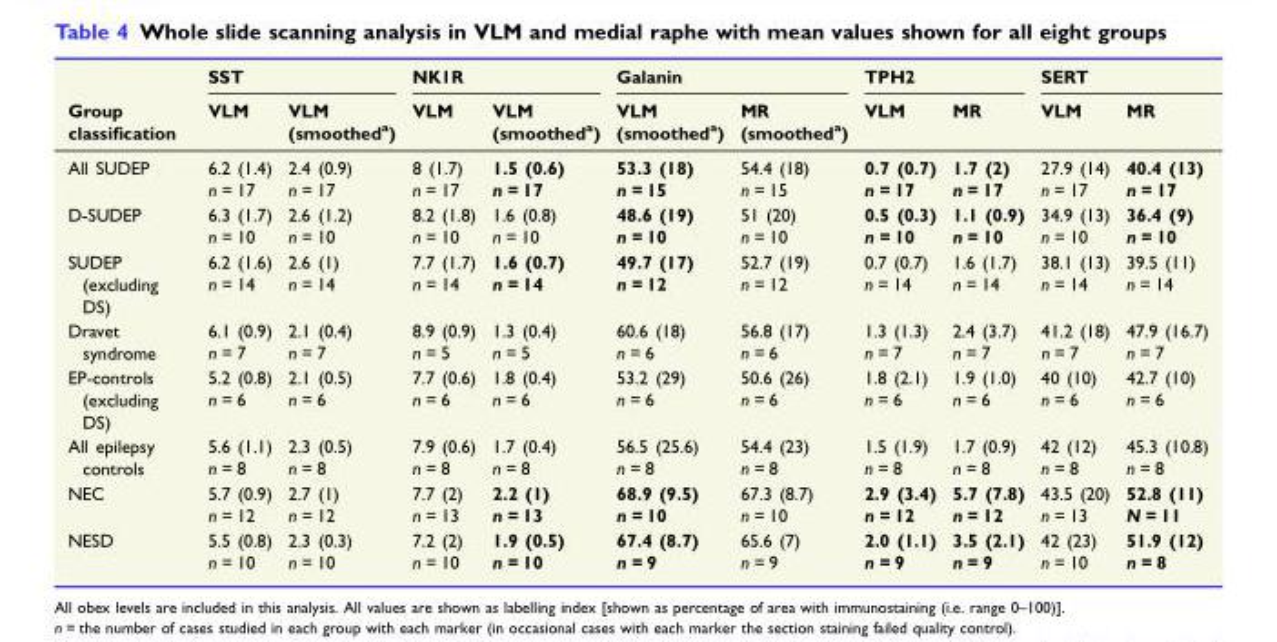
<table><thead><tr><td rowspan="2">Group classification</td><td colspan="2">SST</td><td colspan="2">NK1R</td><td colspan="2">Galanin</td><td colspan="2">TPH2</td><td colspan="2">SERT</td></tr><tr><td>VLM</td><td>VLM (smoothed<sup>a</sup>)</td><td>VLM</td><td>VLM (smoothed<sup>a</sup>)</td><td>VLM (smoothed<sup>a</sup>)</td><td>MR (smoothed<sup>a</sup>)</td><td>VLM</td><td>MR</td><td>VLM</td><td>MR</td></tr></thead><tbody><tr><td rowspan="2">All SUDEP</td><td>6.2 (1.4)</td><td>2.4 (0.9)</td><td>8 (1.7)</td><td>1.5 (0.6)</td><td>53.3 (18)</td><td>54.4 (18)</td><td>0.7 (0.7)</td><td>1.7 (2)</td><td>27.9 (14)</td><td>40.4 (13)</td></tr><tr><td>n = 17</td><td>n = 17</td><td>n = 17</td><td>n = 17</td><td>n = 15</td><td>n = 15</td><td>n = 17</td><td>n = 17</td><td>n = 17</td><td>n = 17</td></tr><tr><td rowspan="2">D-SUDEP</td><td>6.3 (1.7)</td><td>2.6 (1.2)</td><td>8.2 (1.8)</td><td>1.6 (0.8)</td><td>48.6 (19)</td><td>51 (20)</td><td>0.5 (0.3)</td><td>1.1 (0.9)</td><td>34.9 (13)</td><td>36.4 (9)</td></tr><tr><td>n = 10</td><td>n = 10</td><td>n = 10</td><td>n = 10</td><td>n = 10</td><td>n = 10</td><td>n = 10</td><td>n = 10</td><td>n = 10</td><td>n = 10</td></tr><tr><td rowspan="2">SUDEP (excluding DS)</td><td>6.2 (1.6)</td><td>2.6 (1)</td><td>7.7 (1.7)</td><td>1.6 (0.7)</td><td>49.7 (17)</td><td>52.7 (19)</td><td>0.7 (0.7)</td><td>1.6 (1.7)</td><td>38.1 (13)</td><td>39.5 (11)</td></tr><tr><td>n = 14</td><td>n = 14</td><td>n = 14</td><td>n = 14</td><td>n = 12</td><td>n = 12</td><td>n = 14</td><td>n = 14</td><td>n = 14</td><td>n = 14</td></tr><tr><td rowspan="2">Dravet syndrome</td><td>6.1 (0.9)</td><td>2.1 (0.4)</td><td>8.9 (0.9)</td><td>1.3 (0.4)</td><td>60.6 (18)</td><td>56.8 (17)</td><td>1.3 (1.3)</td><td>2.4 (3.7)</td><td>41.2 (18)</td><td>47.9 (16.7)</td></tr><tr><td>n = 7</td><td>n = 7</td><td>n = 5</td><td>n = 5</td><td>n = 6</td><td>n = 6</td><td>n = 7</td><td>n = 7</td><td>n = 7</td><td>n = 7</td></tr><tr><td rowspan="2">EP-controls (excluding DS)</td><td>5.2 (0.8)</td><td>2.1 (0.5)</td><td>7.7 (0.6)</td><td>1.8 (0.4)</td><td>53.2 (29)</td><td>50.6 (26)</td><td>1.8 (2.1)</td><td>1.9 (1.0)</td><td>40 (10)</td><td>42.7 (10)</td></tr><tr><td>n = 6</td><td>n = 6</td><td>n = 6</td><td>n = 6</td><td>n = 6</td><td>n = 6</td><td>n = 6</td><td>n = 6</td><td>n = 6</td><td>n = 6</td></tr><tr><td rowspan="2">All epilepsy controls</td><td>5.6 (1.1)</td><td>2.3 (0.5)</td><td>7.9 (0.6)</td><td>1.7 (0.4)</td><td>56.5 (25.6)</td><td>54.4 (23)</td><td>1.5 (1.9)</td><td>1.7 (0.9)</td><td>42 (12)</td><td>45.3 (10.8)</td></tr><tr><td>n = 8</td><td>n = 8</td><td>n = 8</td><td>n = 8</td><td>n = 8</td><td>n = 8</td><td>n = 8</td><td>n = 8</td><td>n = 8</td><td>n = 8</td></tr><tr><td rowspan="2">NEC</td><td>5.7 (0.9)</td><td>2.7 (1)</td><td>7.7 (2)</td><td>2.2 (1)</td><td>68.9 (9.5)</td><td>67.3 (8.7)</td><td>2.9 (3.4)</td><td>5.7 (7.8)</td><td>43.5 (20)</td><td>52.8 (11)</td></tr><tr><td>n = 12</td><td>n = 12</td><td>n = 13</td><td>n = 13</td><td>n = 10</td><td>n = 10</td><td>n = 12</td><td>n = 12</td><td>n = 13</td><td>N = 11</td></tr><tr><td rowspan="2">NESD</td><td>5.5 (0.8)</td><td>2.3 (0.3)</td><td>7.2 (2)</td><td>1.9 (0.5)</td><td>67.4 (8.7)</td><td>65.6 (7)</td><td>2.0 (1.1)</td><td>3.5 (2.1)</td><td>42 (23)</td><td>51.9 (12)</td></tr><tr><td>n = 10</td><td>n = 10</td><td>n = 10</td><td>n = 10</td><td>n = 9</td><td>n = 9</td><td>n = 9</td><td>n = 9</td><td>n = 10</td><td>n = 8</td></tr></tbody></table>